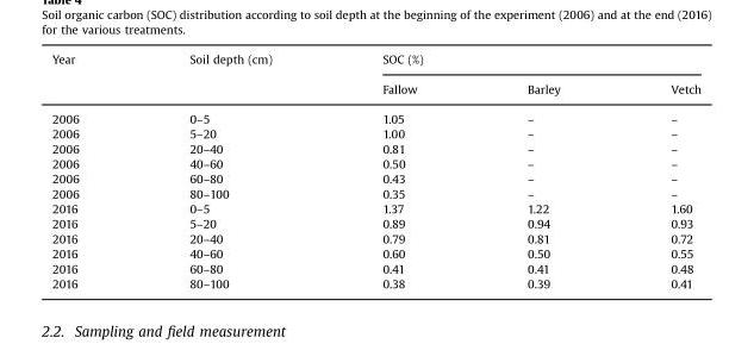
<table><thead><tr><td rowspan="2">Year</td><td rowspan="2">Soil depth (cm)</td><td colspan="3">SOC (%)</td></tr><tr><td>Fallow</td><td>Barley</td><td>Vetch</td></tr></thead><tbody><tr><td>2006</td><td>0–5</td><td>1.05</td><td>–</td><td>–</td></tr><tr><td>2006</td><td>5–20</td><td>1.00</td><td>–</td><td>–</td></tr><tr><td>2006</td><td>20–40</td><td>0.81</td><td>–</td><td>–</td></tr><tr><td>2006</td><td>40–60</td><td>0.50</td><td>–</td><td>–</td></tr><tr><td>2006</td><td>60–80</td><td>0.43</td><td>–</td><td>–</td></tr><tr><td>2006</td><td>80–100</td><td>0.35</td><td>–</td><td>–</td></tr><tr><td>2016</td><td>0–5</td><td>1.37</td><td>1.22</td><td>1.60</td></tr><tr><td>2016</td><td>5–20</td><td>0.89</td><td>0.94</td><td>0.93</td></tr><tr><td>2016</td><td>20–40</td><td>0.79</td><td>0.81</td><td>0.72</td></tr><tr><td>2016</td><td>40–60</td><td>0.60</td><td>0.50</td><td>0.55</td></tr><tr><td>2016</td><td>60–80</td><td>0.41</td><td>0.41</td><td>0.48</td></tr><tr><td>2016</td><td>80–100</td><td>0.38</td><td>0.39</td><td>0.41</td></tr></tbody></table>